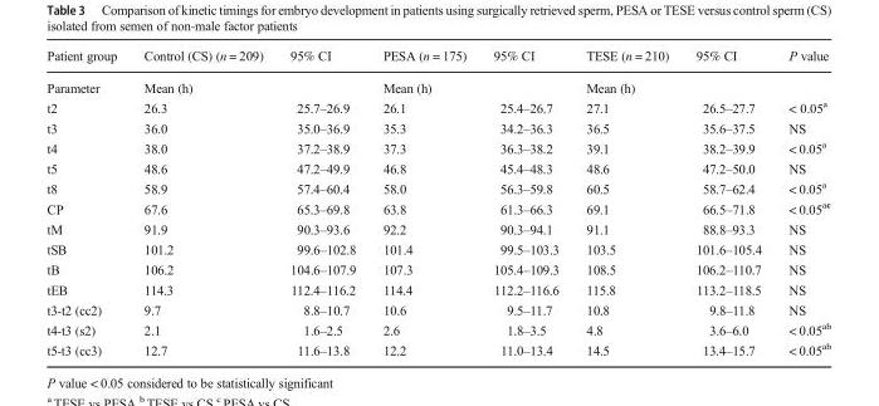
<table><thead><tr><td>Patient group</td><td>Control (CS) (n = 209)</td><td>95% CI</td><td>PESA (n = 175)</td><td>95% CI</td><td>TESE (n = 210)</td><td>95% CI</td><td>P value</td></tr></thead><tbody><tr><td>Parameter</td><td>Mean (h)</td><td></td><td>Mean (h)</td><td></td><td>Mean (h)</td><td></td><td></td></tr><tr><td>t2</td><td>26.3</td><td>25.7–26.9</td><td>26.1</td><td>25.4–26.7</td><td>27.1</td><td>26.5–27.7</td><td>&lt; 0.05<sup>a</sup></td></tr><tr><td>t3</td><td>36.0</td><td>35.0–36.9</td><td>35.3</td><td>34.2–36.3</td><td>36.5</td><td>35.6–37.5</td><td>NS</td></tr><tr><td>t4</td><td>38.0</td><td>37.2–38.9</td><td>37.3</td><td>36.3–38.2</td><td>39.1</td><td>38.2–39.9</td><td>&lt; 0.05<sup>a</sup></td></tr><tr><td>t5</td><td>48.6</td><td>47.2–49.9</td><td>46.8</td><td>45.4–48.3</td><td>48.6</td><td>47.2–50.0</td><td>NS</td></tr><tr><td>t8</td><td>58.9</td><td>57.4–60.4</td><td>58.0</td><td>56.3–59.8</td><td>60.5</td><td>58.7–62.4</td><td>&lt; 0.05<sup>a</sup></td></tr><tr><td>CP</td><td>67.6</td><td>65.3–69.8</td><td>63.8</td><td>61.3–66.3</td><td>69.1</td><td>66.5–71.8</td><td>&lt; 0.05<sup>ac</sup></td></tr><tr><td>tM</td><td>91.9</td><td>90.3–93.6</td><td>92.2</td><td>90.3–94.1</td><td>91.1</td><td>88.8–93.3</td><td>NS</td></tr><tr><td>tSB</td><td>101.2</td><td>99.6–102.8</td><td>101.4</td><td>99.5–103.3</td><td>103.5</td><td>101.6–105.4</td><td>NS</td></tr><tr><td>tB</td><td>106.2</td><td>104.6–107.9</td><td>107.3</td><td>105.4–109.3</td><td>108.5</td><td>106.2–110.7</td><td>NS</td></tr><tr><td>tEB</td><td>114.3</td><td>112.4–116.2</td><td>114.4</td><td>112.2–116.6</td><td>115.8</td><td>113.2–118.5</td><td>NS</td></tr><tr><td>t3-t2 (cc2)</td><td>9.7</td><td>8.8–10.7</td><td>10.6</td><td>9.5–11.7</td><td>10.8</td><td>9.8–11.8</td><td>NS</td></tr><tr><td>t4-t3 (s2)</td><td>2.1</td><td>1.6–2.5</td><td>2.6</td><td>1.8–3.5</td><td>4.8</td><td>3.6–6.0</td><td>&lt; 0.05<sup>ab</sup></td></tr><tr><td>t5-t3 (cc3)</td><td>12.7</td><td>11.6–13.8</td><td>12.2</td><td>11.0–13.4</td><td>14.5</td><td>13.4–15.7</td><td>&lt; 0.05<sup>ab</sup></td></tr></tbody></table>